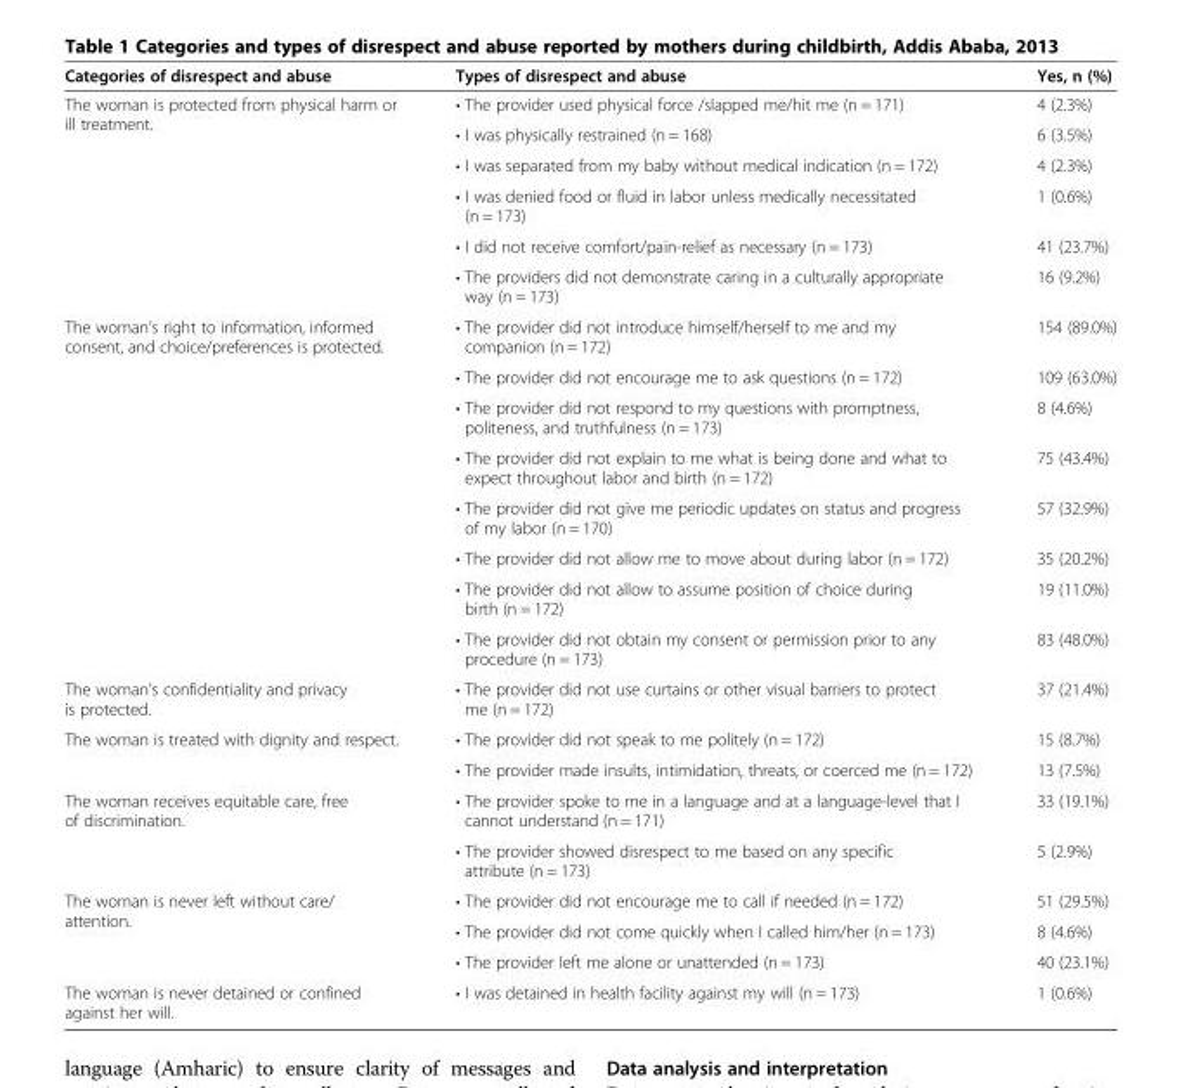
<table><thead><tr><td>Categories of disrespect and abuse</td><td>Types of disrespect and abuse</td><td>Yes, n (%)</td></tr></thead><tbody><tr><td rowspan="6">The woman is protected from physical harm or ill treatment.</td><td>• The provider used physical force /slapped me/hit me (n = 171)</td><td>4 (2.3%)</td></tr><tr><td>• I was physically restrained (n = 168)</td><td>6 (3.5%)</td></tr><tr><td>• I was separated from my baby without medical indication (n = 172)</td><td>4 (2.3%)</td></tr><tr><td>• I was denied food or fluid in labor unless medically necessitated (n = 173)</td><td>1 (0.6%)</td></tr><tr><td>• I did not receive comfort/pain-relief as necessary (n = 173)</td><td>41 (23.7%)</td></tr><tr><td>• The providers did not demonstrate caring in a culturally appropriate way (n = 173)</td><td>16 (9.2%)</td></tr><tr><td rowspan="8">The woman’s right to information, informed consent, and choice/preferences is protected.</td><td>• The provider did not introduce himself/herself to me and my companion (n = 172)</td><td>154 (89.0%)</td></tr><tr><td>• The provider did not encourage me to ask questions (n = 172)</td><td>109 (63.0%)</td></tr><tr><td>• The provider did not respond to my questions with promptness, politeness, and truthfulness (n = 173)</td><td>8 (4.6%)</td></tr><tr><td>• The provider did not explain to me what is being done and what to expect throughout labor and birth (n = 172)</td><td>75 (43.4%)</td></tr><tr><td>• The provider did not give me periodic updates on status and progress of my labor (n = 170)</td><td>57 (32.9%)</td></tr><tr><td>• The provider did not allow me to move about during labor (n = 172)</td><td>35 (20.2%)</td></tr><tr><td>• The provider did not allow to assume position of choice during birth (n = 172)</td><td>19 (11.0%)</td></tr><tr><td>• The provider did not obtain my consent or permission prior to any procedure (n = 173)</td><td>83 (48.0%)</td></tr><tr><td>The woman’s confidentiality and privacy is protected.</td><td>• The provider did not use curtains or other visual barriers to protect me (n = 172)</td><td>37 (21.4%)</td></tr><tr><td rowspan="2">The woman is treated with dignity and respect.</td><td>• The provider did not speak to me politely (n = 172)</td><td>15 (8.7%)</td></tr><tr><td>• The provider made insults, intimidation, threats, or coerced me (n = 172)</td><td>13 (7.5%)</td></tr><tr><td rowspan="2">The woman receives equitable care, free of discrimination.</td><td>• The provider spoke to me in a language and at a language-level that I cannot understand (n = 171)</td><td>33 (19.1%)</td></tr><tr><td>• The provider showed disrespect to me based on any specific attribute (n = 173)</td><td>5 (2.9%)</td></tr><tr><td rowspan="3">The woman is never left without care/ attention.</td><td>• The provider did not encourage me to call if needed (n = 172)</td><td>51 (29.5%)</td></tr><tr><td>• The provider did not come quickly when I called him/her (n = 173)</td><td>8 (4.6%)</td></tr><tr><td>• The provider left me alone or unattended (n = 173)</td><td>40 (23.1%)</td></tr><tr><td>The woman is never detained or confined against her will.</td><td>• I was detained in health facility against my will (n = 173)</td><td>1 (0.6%)</td></tr></tbody></table>